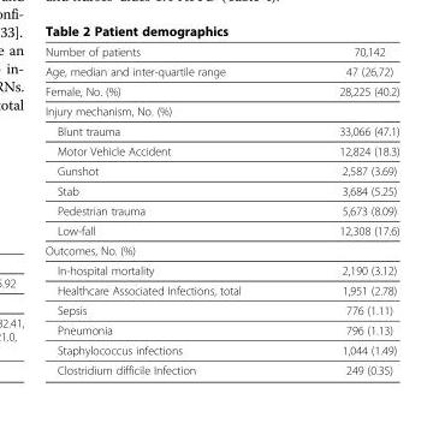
<table><thead><tr><td>Number of patients</td><td>70,142</td></tr></thead><tbody><tr><td>Age, median and inter-quartile range</td><td>47 (26,72)</td></tr><tr><td>Female, No. (%)</td><td>28,225 (40.2)</td></tr><tr><td colspan="2">Injury mechanism, No. (%)</td></tr><tr><td>Blunt trauma</td><td>33,066 (47.1)</td></tr><tr><td>Motor Vehicle Accident</td><td>12,824 (18.3)</td></tr><tr><td>Gunshot</td><td>2,587 (3.69)</td></tr><tr><td>Stab</td><td>3,684 (5.25)</td></tr><tr><td>Pedestrian trauma</td><td>5,673 (8.09)</td></tr><tr><td>Low-fall</td><td>12,308 (17.6)</td></tr><tr><td colspan="2">Outcomes, No. (%)</td></tr><tr><td>In-hospital mortality</td><td>2,190 (3.12)</td></tr><tr><td>Healthcare Associated Infections, total</td><td>1,951 (2.78)</td></tr><tr><td>Sepsis</td><td>776 (1.11)</td></tr><tr><td>Pneumonia</td><td>796 (1.13)</td></tr><tr><td>Staphylococcus infections</td><td>1,044 (1.49)</td></tr><tr><td>Clostridium difficile Infection</td><td>249 (0.35)</td></tr></tbody></table>